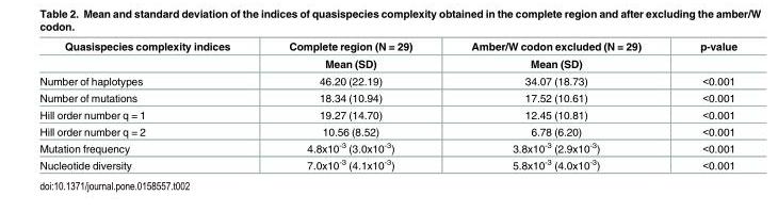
<table><thead><tr><td rowspan="2">Quasispecies complexity indices</td><td rowspan="2">Complete region (N = 29) Mean (SD)</td><td rowspan="2">Amber/W codon excluded (N = 29) Mean (SD)</td><td rowspan="2">p-value</td></tr><tr></tr></thead><tbody><tr><td>Number of haplotypes</td><td>46.20 (22.19)</td><td>34.07 (18.73)</td><td>&lt;0.001</td></tr><tr><td>Number of mutations</td><td>18.34 (10.94)</td><td>17.52 (10.61)</td><td>&lt;0.001</td></tr><tr><td>Hill order number q = 1</td><td>19.27 (14.70)</td><td>12.45 (10.81)</td><td>&lt;0.001</td></tr><tr><td>Hill order number q = 2</td><td>10.56 (8.52)</td><td>6.78 (6.20)</td><td>&lt;0.001</td></tr><tr><td>Mutation frequency</td><td>4.8x10<sup>-3</sup> (3.0x10<sup>-3</sup>)</td><td>3.8x10<sup>-3</sup> (2.9x10<sup>-3</sup>)</td><td>&lt;0.001</td></tr><tr><td>Nucleotide diversity</td><td>7.0x10<sup>-3</sup> (4.1x10<sup>-3</sup>)</td><td>5.8x10<sup>-3</sup> (4.0x10<sup>-3</sup>)</td><td>&lt;0.001</td></tr></tbody></table>